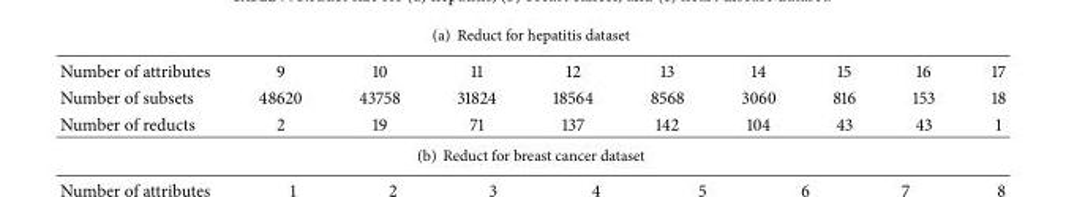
<table><tbody><tr><td>Number of attributes</td><td>9</td><td>10</td><td>11</td><td>12</td><td>13</td><td>14</td><td>15</td><td>16</td><td>17</td></tr><tr><td>Number of subsets</td><td>48620</td><td>43758</td><td>31824</td><td>18564</td><td>8568</td><td>3060</td><td>816</td><td>153</td><td>18</td></tr><tr><td>Number of reducts</td><td>2</td><td>19</td><td>71</td><td>137</td><td>142</td><td>104</td><td>43</td><td>43</td><td>1</td></tr></tbody></table>